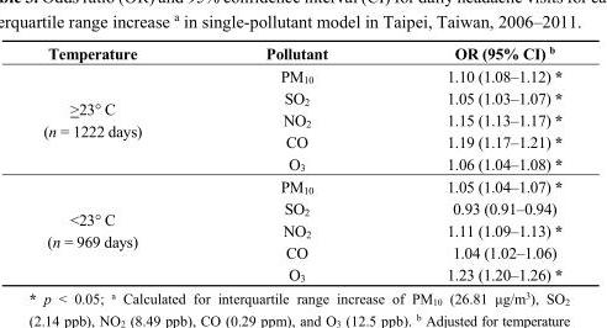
<table><thead><tr><td>Temperature</td><td>Pollutant</td><td>OR (95% CI) <sup>b</sup></td></tr></thead><tbody><tr><td rowspan="5">&gt;23° C (n = 1222 days)</td><td>PM<sub>10</sub></td><td>1.10 (1.08–1.12) *</td></tr><tr><td>SO<sub>2</sub></td><td>1.05 (1.03–1.07) *</td></tr><tr><td>NO<sub>2</sub></td><td>1.15 (1.13–1.17) *</td></tr><tr><td>CO</td><td>1.19 (1.17–1.21) *</td></tr><tr><td>O<sub>3</sub></td><td>1.06 (1.04–1.08) *</td></tr><tr><td rowspan="5">&lt;23° C (n = 969 days)</td><td>PM<sub>10</sub></td><td>1.05 (1.04–1.07) *</td></tr><tr><td>SO<sub>2</sub></td><td>0.93 (0.91–0.94)</td></tr><tr><td>NO<sub>2</sub></td><td>1.11 (1.09–1.13) *</td></tr><tr><td>CO</td><td>1.04 (1.02–1.06)</td></tr><tr><td>O<sub>3</sub></td><td>1.23 (1.20–1.26) *</td></tr></tbody></table>